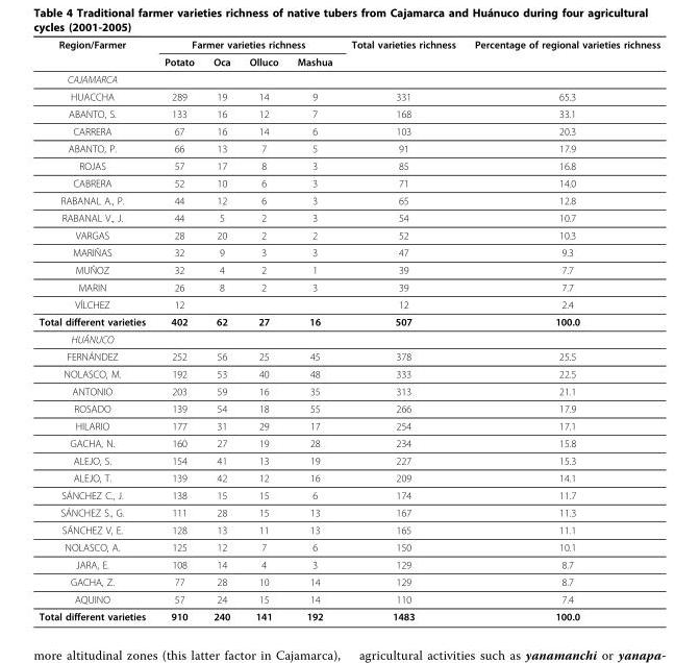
<table><thead><tr><td rowspan="2">Region/Farmer</td><td colspan="4">Farmer varieties richness</td><td rowspan="2">Total varieties richness</td><td rowspan="2">Percentage of regional varieties richness</td></tr><tr><td>Potato</td><td>Oca</td><td>Olluco</td><td>Mashua</td></tr></thead><tbody><tr><td colspan="7">CAJAMARCA</td></tr><tr><td>HUACCHA</td><td>289</td><td>19</td><td>14</td><td>9</td><td>331</td><td>65.3</td></tr><tr><td>ABANTO, S.</td><td>133</td><td>16</td><td>12</td><td>7</td><td>168</td><td>33.1</td></tr><tr><td>CARRERA</td><td>67</td><td>16</td><td>14</td><td>6</td><td>103</td><td>20.3</td></tr><tr><td>ABANTO, P.</td><td>66</td><td>13</td><td>7</td><td>5</td><td>91</td><td>17.9</td></tr><tr><td>ROJAS</td><td>57</td><td>17</td><td>8</td><td>3</td><td>85</td><td>16.8</td></tr><tr><td>CABRERA</td><td>52</td><td>10</td><td>6</td><td>3</td><td>71</td><td>14.0</td></tr><tr><td>RABANAL A., P.</td><td>44</td><td>12</td><td>6</td><td>3</td><td>65</td><td>12.8</td></tr><tr><td>RABANAL V., J.</td><td>44</td><td>5</td><td>2</td><td>3</td><td>54</td><td>10.7</td></tr><tr><td>VARGAS</td><td>28</td><td>20</td><td>2</td><td>2</td><td>52</td><td>10.3</td></tr><tr><td>MARIÑAS</td><td>32</td><td>9</td><td>3</td><td>3</td><td>47</td><td>9.3</td></tr><tr><td>MUÑOZ</td><td>32</td><td>4</td><td>2</td><td>1</td><td>39</td><td>7.7</td></tr><tr><td>MARIN</td><td>26</td><td>8</td><td>2</td><td>3</td><td>39</td><td>7.7</td></tr><tr><td>VÍLCHEZ</td><td>12</td><td></td><td></td><td></td><td>12</td><td>2.4</td></tr><tr><td>Total different varieties</td><td>402</td><td>62</td><td>27</td><td>16</td><td>507</td><td>100.0</td></tr><tr><td colspan="7">HUÁNUCO</td></tr><tr><td>FERNÁNDEZ</td><td>252</td><td>56</td><td>25</td><td>45</td><td>378</td><td>25.5</td></tr><tr><td>NOLASCO, M.</td><td>192</td><td>53</td><td>40</td><td>48</td><td>333</td><td>22.5</td></tr><tr><td>ANTONIO</td><td>203</td><td>59</td><td>16</td><td>35</td><td>313</td><td>21.1</td></tr><tr><td>ROSADO</td><td>139</td><td>54</td><td>18</td><td>55</td><td>266</td><td>17.9</td></tr><tr><td>HILARIO</td><td>177</td><td>31</td><td>29</td><td>17</td><td>254</td><td>17.1</td></tr><tr><td>GACHA, N.</td><td>160</td><td>27</td><td>19</td><td>28</td><td>234</td><td>15.8</td></tr><tr><td>ALEJO, S.</td><td>154</td><td>41</td><td>13</td><td>19</td><td>227</td><td>15.3</td></tr><tr><td>ALEJO, T.</td><td>139</td><td>42</td><td>12</td><td>16</td><td>209</td><td>14.1</td></tr><tr><td>SÁNCHEZ C., J.</td><td>138</td><td>15</td><td>15</td><td>6</td><td>174</td><td>11.7</td></tr><tr><td>SÁNCHEZ S., G.</td><td>111</td><td>28</td><td>15</td><td>13</td><td>167</td><td>11.3</td></tr><tr><td>SÁNCHEZ V, E.</td><td>128</td><td>13</td><td>11</td><td>13</td><td>165</td><td>11.1</td></tr><tr><td>NOLASCO, A.</td><td>125</td><td>12</td><td>7</td><td>6</td><td>150</td><td>10.1</td></tr><tr><td>JARA, E.</td><td>108</td><td>14</td><td>4</td><td>3</td><td>129</td><td>8.7</td></tr><tr><td>GACHA, Z.</td><td>77</td><td>28</td><td>10</td><td>14</td><td>129</td><td>8.7</td></tr><tr><td>AQUINO</td><td>57</td><td>24</td><td>15</td><td>14</td><td>110</td><td>7.4</td></tr><tr><td>Total different varieties</td><td>910</td><td>240</td><td>141</td><td>192</td><td>1483</td><td>100.0</td></tr></tbody></table>